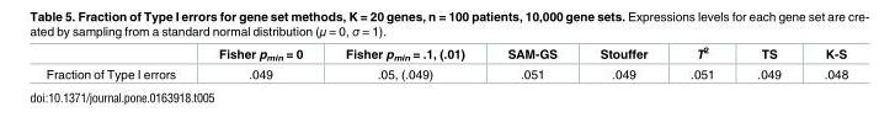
<table><thead><tr><td></td><td>Fisher p<sub>min</sub> = 0</td><td>Fisher p<sub>min</sub> = .1, (.01)</td><td>SAM-GS</td><td>Stouffer</td><td>T<sup>2</sup></td><td>TS</td><td>K-S</td></tr></thead><tbody><tr><td>Fraction of Type I errors</td><td>.049</td><td>.05, (.049)</td><td>.051</td><td>.049</td><td>.051</td><td>.049</td><td>.048</td></tr></tbody></table>